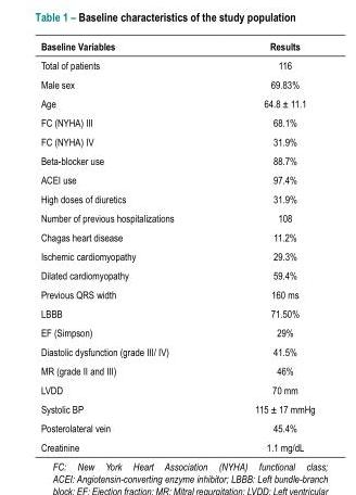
<table><thead><tr><td>Baseline Variables</td><td>Results</td></tr></thead><tbody><tr><td>Total of patients</td><td>116</td></tr><tr><td>Male sex</td><td>69.83%</td></tr><tr><td>Age</td><td>64.8 ± 11.1</td></tr><tr><td>FC (NYHA) III</td><td>68.1%</td></tr><tr><td>FC (NYHA) IV</td><td>31.9%</td></tr><tr><td>Beta-blocker use</td><td>88.7%</td></tr><tr><td>ACEI use</td><td>97.4%</td></tr><tr><td>High doses of diuretics</td><td>31.9%</td></tr><tr><td>Number of previous hospitalizations</td><td>108</td></tr><tr><td>Chagas heart disease</td><td>11.2%</td></tr><tr><td>Ischemic cardiomyopathy</td><td>29.3%</td></tr><tr><td>Dilated cardiomyopathy</td><td>59.4%</td></tr><tr><td>Previous QRS width</td><td>160 ms</td></tr><tr><td>LBBB</td><td>71.50%</td></tr><tr><td>EF (Simpson)</td><td>29%</td></tr><tr><td>Diastolic dysfunction (grade III/ IV)</td><td>41.5%</td></tr><tr><td>MR (grade II and III)</td><td>46%</td></tr><tr><td>LVDD</td><td>70 mm</td></tr><tr><td>Systolic BP</td><td>115 ± 17 mmHg</td></tr><tr><td>Posterolateral vein</td><td>45.4%</td></tr><tr><td>Creatinine</td><td>1.1 mg/dL</td></tr></tbody></table>